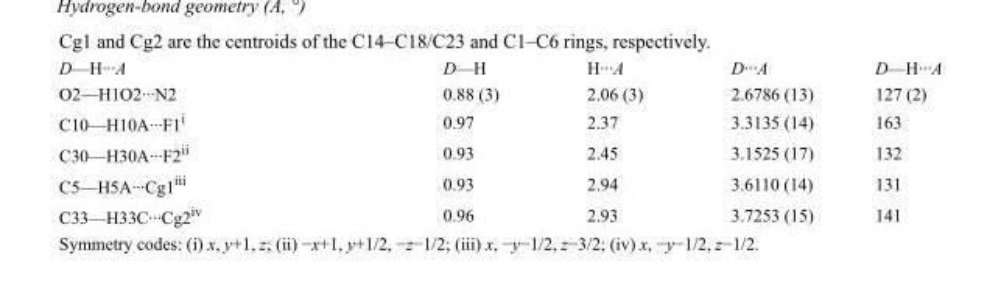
<table><tbody><tr><td>D—H···A</td><td>D—H</td><td>H···A</td><td>D···A</td><td>D—H···A</td></tr><tr><td>O2—H1O2···N2</td><td>0.88 (3)</td><td>2.06 (3)</td><td>2.6786 (13)</td><td>127 (2)</td></tr><tr><td>C10—H10A···F1<sup>i</sup></td><td>0.97</td><td>2.37</td><td>3.3135 (14)</td><td>163</td></tr><tr><td>C30—H30A···F2<sup>ii</sup></td><td>0.93</td><td>2.45</td><td>3.1525 (17)</td><td>132</td></tr><tr><td>C5—H5A···Cg1<sup>iii</sup></td><td>0.93</td><td>2.94</td><td>3.6110 (14)</td><td>131</td></tr><tr><td>C33—H33C···Cg2<sup>iv</sup></td><td>0.96</td><td>2.93</td><td>3.7253 (15)</td><td>141</td></tr></tbody></table>